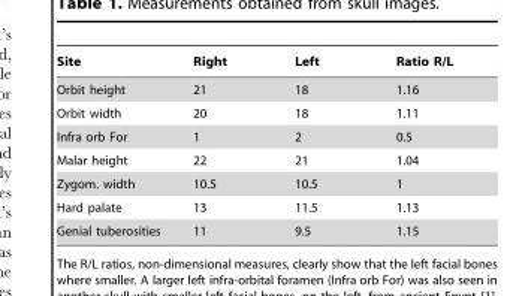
<table><thead><tr><td>Site</td><td>Right</td><td>Left</td><td>Ratio R/L</td></tr></thead><tbody><tr><td>Orbit height</td><td>21</td><td>18</td><td>1.16</td></tr><tr><td>Orbit width</td><td>20</td><td>18</td><td>1.11</td></tr><tr><td>Infra orb For</td><td>1</td><td>2</td><td>0.5</td></tr><tr><td>Malar height</td><td>22</td><td>21</td><td>1.04</td></tr><tr><td>Zygom. width</td><td>10.5</td><td>10.5</td><td>1</td></tr><tr><td>Hard palate</td><td>13</td><td>11.5</td><td>1.13</td></tr><tr><td>Genial tuberosities</td><td>11</td><td>9.5</td><td>1.15</td></tr></tbody></table>